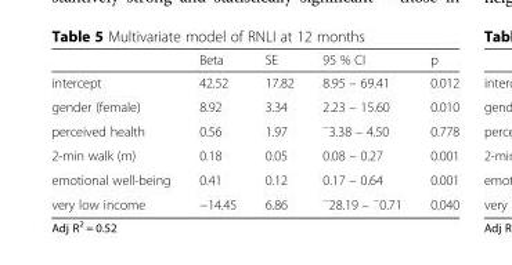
<table><thead><tr><td></td><td>Beta</td><td>SE</td><td>95 % CI</td><td>p</td></tr></thead><tbody><tr><td>intercept</td><td>42.52</td><td>17.82</td><td>8.95 – 69.41</td><td>0.012</td></tr><tr><td>gender (female)</td><td>8.92</td><td>3.34</td><td>2.23 – 15.60</td><td>0.010</td></tr><tr><td>perceived health</td><td>0.56</td><td>1.97</td><td><sup>−</sup>3.38 – 4.50</td><td>0.778</td></tr><tr><td>2-min walk (m)</td><td>0.18</td><td>0.05</td><td>0.08 – 0.27</td><td>0.001</td></tr><tr><td>emotional well-being</td><td>0.41</td><td>0.12</td><td>0.17 – 0.64</td><td>0.001</td></tr><tr><td>very low income</td><td>−14.45</td><td>6.86</td><td><sup>−</sup>28.19 – <sup>−</sup>0.71</td><td>0.040</td></tr></tbody></table>